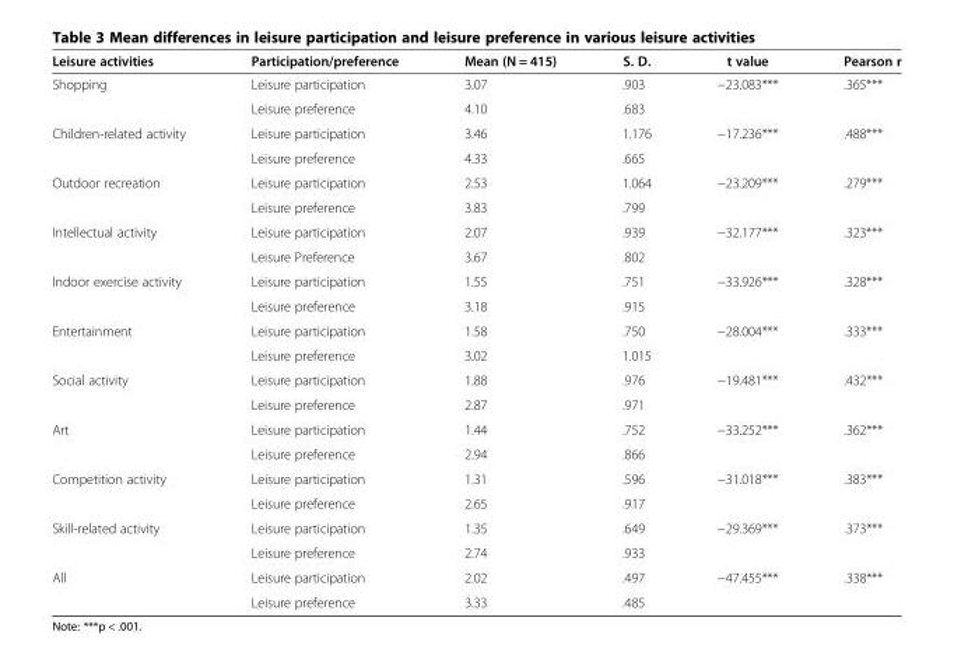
<table><thead><tr><td>Leisure activities</td><td>Participation/preference</td><td>Mean (N = 415)</td><td>S. D.</td><td>t value</td><td>Pearson r</td></tr></thead><tbody><tr><td rowspan="2">Shopping</td><td>Leisure participation</td><td>3.07</td><td>.903</td><td rowspan="2">−23.083***</td><td rowspan="2">.365***</td></tr><tr><td>Leisure preference</td><td>4.10</td><td>.683</td></tr><tr><td rowspan="2">Children-related activity</td><td>Leisure participation</td><td>3.46</td><td>1.176</td><td rowspan="2">−17.236***</td><td rowspan="2">.488***</td></tr><tr><td>Leisure preference</td><td>4.33</td><td>.665</td></tr><tr><td rowspan="2">Outdoor recreation</td><td>Leisure participation</td><td>2.53</td><td>1.064</td><td rowspan="2">−23.209***</td><td rowspan="2">.279***</td></tr><tr><td>Leisure preference</td><td>3.83</td><td>.799</td></tr><tr><td rowspan="2">Intellectual activity</td><td>Leisure participation</td><td>2.07</td><td>.939</td><td rowspan="2">−32.177***</td><td rowspan="2">.323***</td></tr><tr><td>Leisure Preference</td><td>3.67</td><td>.802</td></tr><tr><td rowspan="2">Indoor exercise activity</td><td>Leisure participation</td><td>1.55</td><td>.751</td><td rowspan="2">−33.926***</td><td rowspan="2">.328***</td></tr><tr><td>Leisure preference</td><td>3.18</td><td>.915</td></tr><tr><td rowspan="2">Entertainment</td><td>Leisure participation</td><td>1.58</td><td>.750</td><td rowspan="2">−28.004***</td><td rowspan="2">.333***</td></tr><tr><td>Leisure preference</td><td>3.02</td><td>1.015</td></tr><tr><td rowspan="2">Social activity</td><td>Leisure participation</td><td>1.88</td><td>.976</td><td rowspan="2">−19.481***</td><td rowspan="2">.432***</td></tr><tr><td>Leisure preference</td><td>2.87</td><td>.971</td></tr><tr><td rowspan="2">Art</td><td>Leisure participation</td><td>1.44</td><td>.752</td><td rowspan="2">−33.252***</td><td rowspan="2">.362***</td></tr><tr><td>Leisure preference</td><td>2.94</td><td>.866</td></tr><tr><td rowspan="2">Competition activity</td><td>Leisure participation</td><td>1.31</td><td>.596</td><td rowspan="2">−31.018***</td><td rowspan="2">.383***</td></tr><tr><td>Leisure preference</td><td>2.65</td><td>.917</td></tr><tr><td rowspan="2">Skill-related activity</td><td>Leisure participation</td><td>1.35</td><td>.649</td><td rowspan="2">−29.369***</td><td rowspan="2">.373***</td></tr><tr><td>Leisure preference</td><td>2.74</td><td>.933</td></tr><tr><td rowspan="2">All</td><td>Leisure participation</td><td>2.02</td><td>.497</td><td>−47.455***</td><td>.338***</td></tr><tr><td>Leisure preference</td><td>3.33</td><td>.485</td><td></td><td></td></tr></tbody></table>